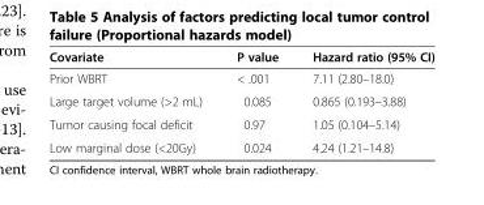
<table><thead><tr><td>Covariate</td><td>P value</td><td>Hazard ratio (95% CI)</td></tr></thead><tbody><tr><td>Prior WBRT</td><td>&lt; .001</td><td>7.11 (2.80–18.0)</td></tr><tr><td>Large target volume (&gt;2 mL)</td><td>0.085</td><td>0.865 (0.193–3.88)</td></tr><tr><td>Tumor causing focal deficit</td><td>0.97</td><td>1.05 (0.104–5.14)</td></tr><tr><td>Low marginal dose (&lt;20Gy)</td><td>0.024</td><td>4.24 (1.21–14.8)</td></tr></tbody></table>